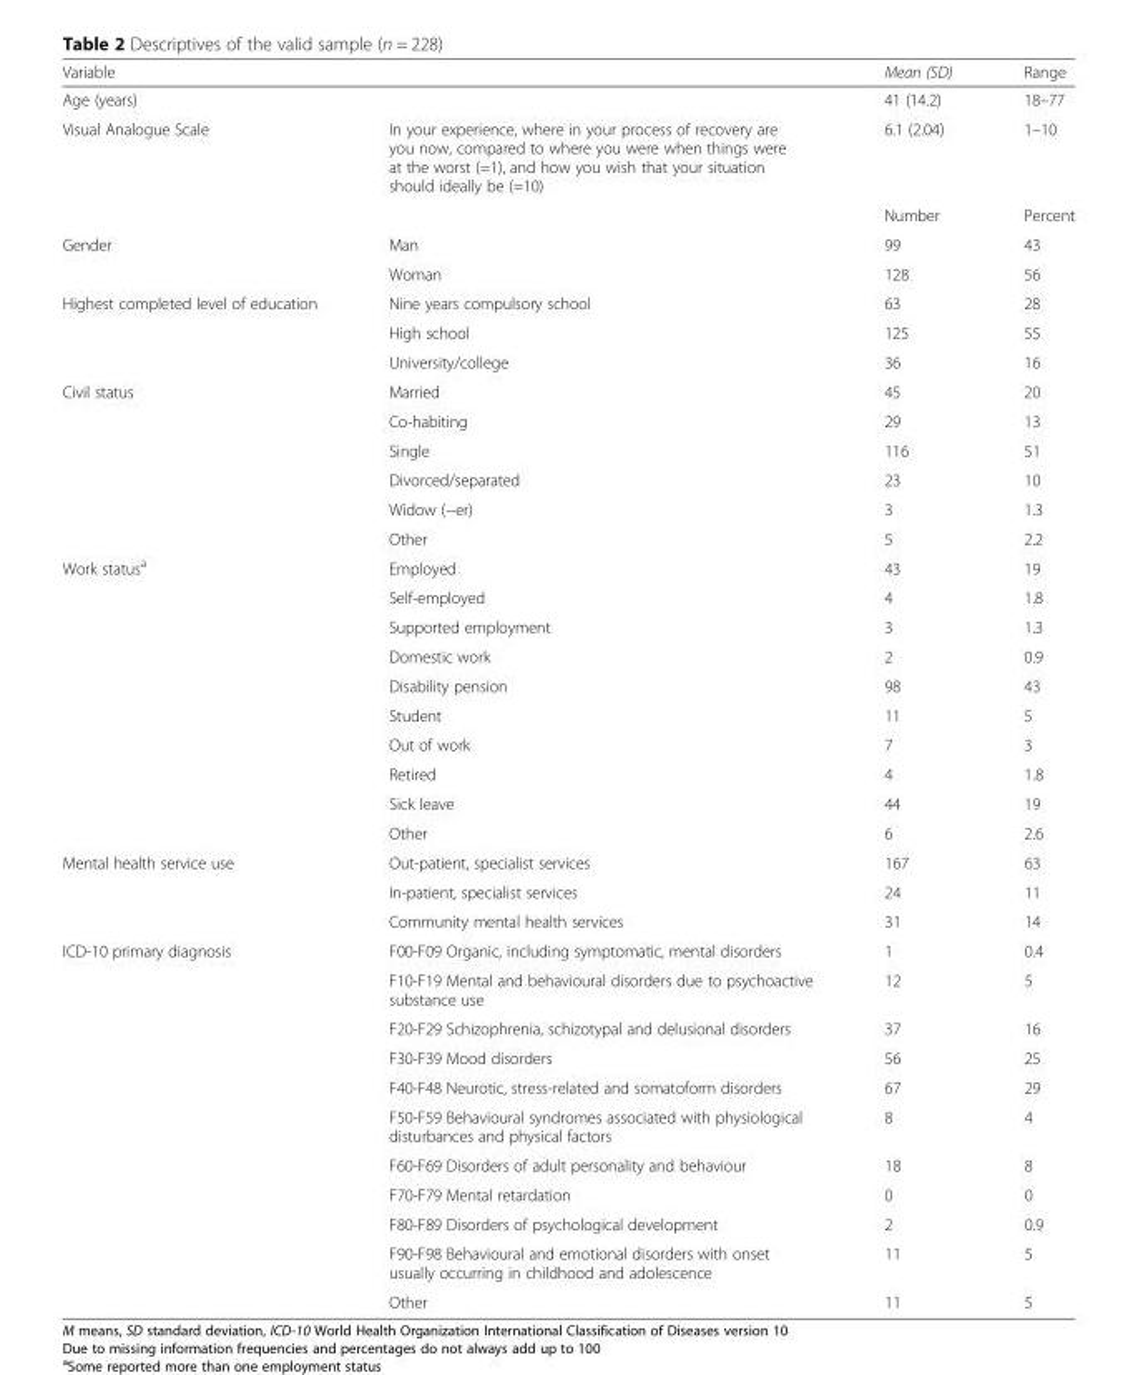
<table><thead><tr><td>Variable</td><td></td><td>Mean (SD)</td><td>Range</td></tr></thead><tbody><tr><td>Age (years)</td><td></td><td>41 (14.2)</td><td>18–77</td></tr><tr><td>Visual Analogue Scale</td><td>In your experience, where in your process of recovery are you now, compared to where you were when things were at the worst (=1), and how you wish that your situation should ideally be (=10)</td><td>6.1 (2.04)</td><td>1–10</td></tr><tr><td colspan="2"></td><td>Number</td><td>Percent</td></tr><tr><td rowspan="2">Gender</td><td>Man</td><td>99</td><td>43</td></tr><tr><td>Woman</td><td>128</td><td>56</td></tr><tr><td rowspan="3">Highest completed level of education</td><td>Nine years compulsory school</td><td>63</td><td>28</td></tr><tr><td>High school</td><td>125</td><td>55</td></tr><tr><td>University/college</td><td>36</td><td>16</td></tr><tr><td rowspan="6">Civil status</td><td>Married</td><td>45</td><td>20</td></tr><tr><td>Co-habiting</td><td>29</td><td>13</td></tr><tr><td>Single</td><td>116</td><td>51</td></tr><tr><td>Divorced/separated</td><td>23</td><td>10</td></tr><tr><td>Widow (−er)</td><td>3</td><td>1.3</td></tr><tr><td>Other</td><td>5</td><td>2.2</td></tr><tr><td rowspan="10">Work status<sup>a</sup></td><td>Employed</td><td>43</td><td>19</td></tr><tr><td>Self-employed</td><td>4</td><td>1.8</td></tr><tr><td>Supported employment</td><td>3</td><td>1.3</td></tr><tr><td>Domestic work</td><td>2</td><td>0.9</td></tr><tr><td>Disability pension</td><td>98</td><td>43</td></tr><tr><td>Student</td><td>11</td><td>5</td></tr><tr><td>Out of work</td><td>7</td><td>3</td></tr><tr><td>Retired</td><td>4</td><td>1.8</td></tr><tr><td>Sick leave</td><td>44</td><td>19</td></tr><tr><td>Other</td><td>6</td><td>2.6</td></tr><tr><td rowspan="3">Mental health service use</td><td>Out-patient, specialist services</td><td>167</td><td>63</td></tr><tr><td>In-patient, specialist services</td><td>24</td><td>11</td></tr><tr><td>Community mental health services</td><td>31</td><td>14</td></tr><tr><td rowspan="11">ICD-10 primary diagnosis</td><td>F00-F09 Organic, including symptomatic, mental disorders</td><td>1</td><td>0.4</td></tr><tr><td>F10-F19 Mental and behavioural disorders due to psychoactive substance use</td><td>12</td><td>5</td></tr><tr><td>F20-F29 Schizophrenia, schizotypal and delusional disorders</td><td>37</td><td>16</td></tr><tr><td>F30-F39 Mood disorders</td><td>56</td><td>25</td></tr><tr><td>F40-F48 Neurotic, stress-related and somatoform disorders</td><td>67</td><td>29</td></tr><tr><td>F50-F59 Behavioural syndromes associated with physiological disturbances and physical factors</td><td>8</td><td>4</td></tr><tr><td>F60-F69 Disorders of adult personality and behaviour</td><td>18</td><td>8</td></tr><tr><td>F70-F79 Mental retardation</td><td>0</td><td>0</td></tr><tr><td>F80-F89 Disorders of psychological development</td><td>2</td><td>0.9</td></tr><tr><td>F90-F98 Behavioural and emotional disorders with onset usually occurring in childhood and adolescence</td><td>11</td><td>5</td></tr><tr><td>Other</td><td>11</td><td>5</td></tr></tbody></table>